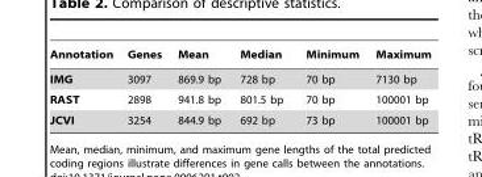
<table><thead><tr><td>Annotation</td><td>Genes</td><td>Mean</td><td>Median</td><td>Minimum</td><td>Maximum</td></tr></thead><tbody><tr><td>IMG</td><td>3097</td><td>869.9 bp</td><td>728 bp</td><td>70 bp</td><td>7130 bp</td></tr><tr><td>RAST</td><td>2898</td><td>941.8 bp</td><td>801.5 bp</td><td>70 bp</td><td>100001 bp</td></tr><tr><td>JCVI</td><td>3254</td><td>844.9 bp</td><td>692 bp</td><td>73 bp</td><td>100001 bp</td></tr></tbody></table>